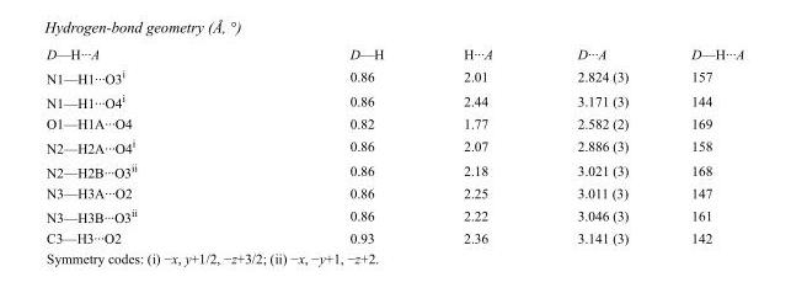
<table><tbody><tr><td>D—H···A</td><td>D—H</td><td>H···A</td><td>D···A</td><td>D—H···A</td></tr><tr><td>N1—H1···O3<sup>i</sup></td><td>0.86</td><td>2.01</td><td>2.824 (3)</td><td>157</td></tr><tr><td>N1—H1···O4<sup>i</sup></td><td>0.86</td><td>2.44</td><td>3.171 (3)</td><td>144</td></tr><tr><td>O1—H1A···O4</td><td>0.82</td><td>1.77</td><td>2.582 (2)</td><td>169</td></tr><tr><td>N2—H2A···O4<sup>i</sup></td><td>0.86</td><td>2.07</td><td>2.886 (3)</td><td>158</td></tr><tr><td>N2—H2B···O3<sup>ii</sup></td><td>0.86</td><td>2.18</td><td>3.021 (3)</td><td>168</td></tr><tr><td>N3—H3A···O2</td><td>0.86</td><td>2.25</td><td>3.011 (3)</td><td>147</td></tr><tr><td>N3—H3B···O3<sup>ii</sup></td><td>0.86</td><td>2.22</td><td>3.046 (3)</td><td>161</td></tr><tr><td>C3—H3···O2</td><td>0.93</td><td>2.36</td><td>3.141 (3)</td><td>142</td></tr></tbody></table>